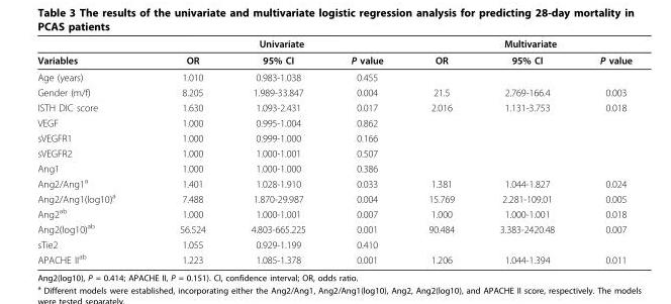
<table><thead><tr><td rowspan="2">Variables</td><td colspan="3">Univariate</td><td colspan="3">Multivariate</td></tr><tr><td>OR</td><td>95% CI</td><td>P value</td><td>OR</td><td>95% CI</td><td>P value</td></tr></thead><tbody><tr><td>Age (years)</td><td>1.010</td><td>0.983-1.038</td><td>0.455</td><td></td><td></td><td></td></tr><tr><td>Gender (m/f)</td><td>8.205</td><td>1.989-33.847</td><td>0.004</td><td>21.5</td><td>2.769-166.4</td><td>0.003</td></tr><tr><td>ISTH DIC score</td><td>1.630</td><td>1.093-2.431</td><td>0.017</td><td>2.016</td><td>1.131-3.753</td><td>0.018</td></tr><tr><td>VEGF</td><td>1.000</td><td>0.995-1.004</td><td>0.862</td><td></td><td></td><td></td></tr><tr><td>sVEGFR1</td><td>1.000</td><td>0.999-1.000</td><td>0.166</td><td></td><td></td><td></td></tr><tr><td>sVEGFR2</td><td>1.000</td><td>1.000-1.001</td><td>0.507</td><td></td><td></td><td></td></tr><tr><td>Ang1</td><td>1.000</td><td>1.000-1.000</td><td>0.386</td><td></td><td></td><td></td></tr><tr><td>Ang2/Ang1<sup>a</sup></td><td>1.401</td><td>1.028-1.910</td><td>0.033</td><td>1.381</td><td>1.044-1.827</td><td>0.024</td></tr><tr><td>Ang2/Ang1(log10)<sup>a</sup></td><td>7.488</td><td>1.870-29.987</td><td>0.004</td><td>15.769</td><td>2.281-109.01</td><td>0.005</td></tr><tr><td>Ang2<sup>ab</sup></td><td>1.000</td><td>1.000-1.001</td><td>0.007</td><td>1.000</td><td>1.000-1.001</td><td>0.018</td></tr><tr><td>Ang2(log10)<sup>ab</sup></td><td>56.524</td><td>4.803-665.225</td><td>0.001</td><td>90.484</td><td>3.383-2420.48</td><td>0.007</td></tr><tr><td>sTie2</td><td>1.055</td><td>0.929-1.199</td><td>0.410</td><td></td><td></td><td></td></tr><tr><td>APACHE II<sup>ab</sup></td><td>1.223</td><td>1.085-1.378</td><td>0.001</td><td>1.206</td><td>1.044-1.394</td><td>0.011</td></tr></tbody></table>